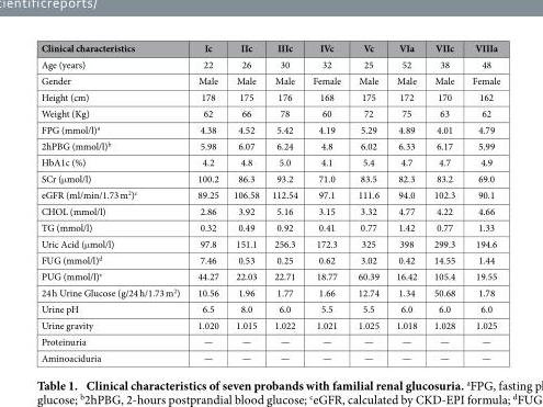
<table><thead><tr><td>Clinical characteristics</td><td>Ic</td><td>IIc</td><td>IIIc</td><td>IVc</td><td>Vc</td><td>VIa</td><td>VIIc</td><td>VIIIa</td></tr></thead><tbody><tr><td>Age (years)</td><td>22</td><td>26</td><td>30</td><td>32</td><td>25</td><td>52</td><td>38</td><td>48</td></tr><tr><td>Gender</td><td>Male</td><td>Male</td><td>Male</td><td>Female</td><td>Male</td><td>Male</td><td>Male</td><td>Female</td></tr><tr><td>Height (cm)</td><td>178</td><td>175</td><td>176</td><td>168</td><td>175</td><td>172</td><td>170</td><td>162</td></tr><tr><td>Weight (Kg)</td><td>62</td><td>66</td><td>78</td><td>60</td><td>72</td><td>75</td><td>63</td><td>62</td></tr><tr><td>FPG (mmol/l)<sup>a</sup></td><td>4.38</td><td>4.52</td><td>5.42</td><td>4.19</td><td>5.29</td><td>4.89</td><td>4.01</td><td>4.79</td></tr><tr><td>2hPBG (mmol/l)<sup>b</sup></td><td>5.98</td><td>6.07</td><td>6.24</td><td>4.8</td><td>6.02</td><td>6.33</td><td>6.17</td><td>5.99</td></tr><tr><td>HbA1c (%)</td><td>4.2</td><td>4.8</td><td>5.0</td><td>4.1</td><td>5.4</td><td>4.7</td><td>4.7</td><td>4.9</td></tr><tr><td>SCr (μ mol/l)</td><td>100.2</td><td>86.3</td><td>93.2</td><td>71.0</td><td>83.5</td><td>82.3</td><td>83.2</td><td>69.0</td></tr><tr><td>eGFR (ml/min/1.73 m<sup>2</sup>)<sup>c</sup></td><td>89.25</td><td>106.58</td><td>112.54</td><td>97.1</td><td>111.6</td><td>94.0</td><td>102.3</td><td>90.1</td></tr><tr><td>CHOL (mmol/l)</td><td>2.86</td><td>3.92</td><td>5.16</td><td>3.15</td><td>3.32</td><td>4.77</td><td>4.22</td><td>4.66</td></tr><tr><td>TG (mmol/l)</td><td>0.32</td><td>0.49</td><td>0.92</td><td>0.41</td><td>0.77</td><td>1.42</td><td>0.77</td><td>1.33</td></tr><tr><td>Uric Acid (μ mol/l)</td><td>97.8</td><td>151.1</td><td>256.3</td><td>172.3</td><td>325</td><td>398</td><td>299.3</td><td>194.6</td></tr><tr><td>FUG (mmol/l)<sup>d</sup></td><td>7.46</td><td>0.53</td><td>0.25</td><td>0.62</td><td>3.02</td><td>0.42</td><td>14.55</td><td>1.44</td></tr><tr><td>PUG (mmol/l)<sup>e</sup></td><td>44.27</td><td>22.03</td><td>22.71</td><td>18.77</td><td>60.39</td><td>16.42</td><td>105.4</td><td>19.55</td></tr><tr><td>24 h Urine Glucose (g/24 h/1.73 m<sup>2</sup>)</td><td>10.56</td><td>1.96</td><td>1.77</td><td>1.66</td><td>12.74</td><td>1.34</td><td>50.68</td><td>1.78</td></tr><tr><td>Urine pH</td><td>6.5</td><td>8.0</td><td>6.0</td><td>5.5</td><td>5.5</td><td>6.0</td><td>6.0</td><td>6.0</td></tr><tr><td>Urine gravity</td><td>1.020</td><td>1.015</td><td>1.022</td><td>1.021</td><td>1.025</td><td>1.018</td><td>1.028</td><td>1.025</td></tr><tr><td>Proteinuria</td><td>—</td><td>—</td><td>—</td><td>—</td><td>—</td><td>—</td><td>—</td><td>—</td></tr><tr><td>Aminoaciduria</td><td>—</td><td>—</td><td>—</td><td>—</td><td>—</td><td>—</td><td>—</td><td>—</td></tr></tbody></table>